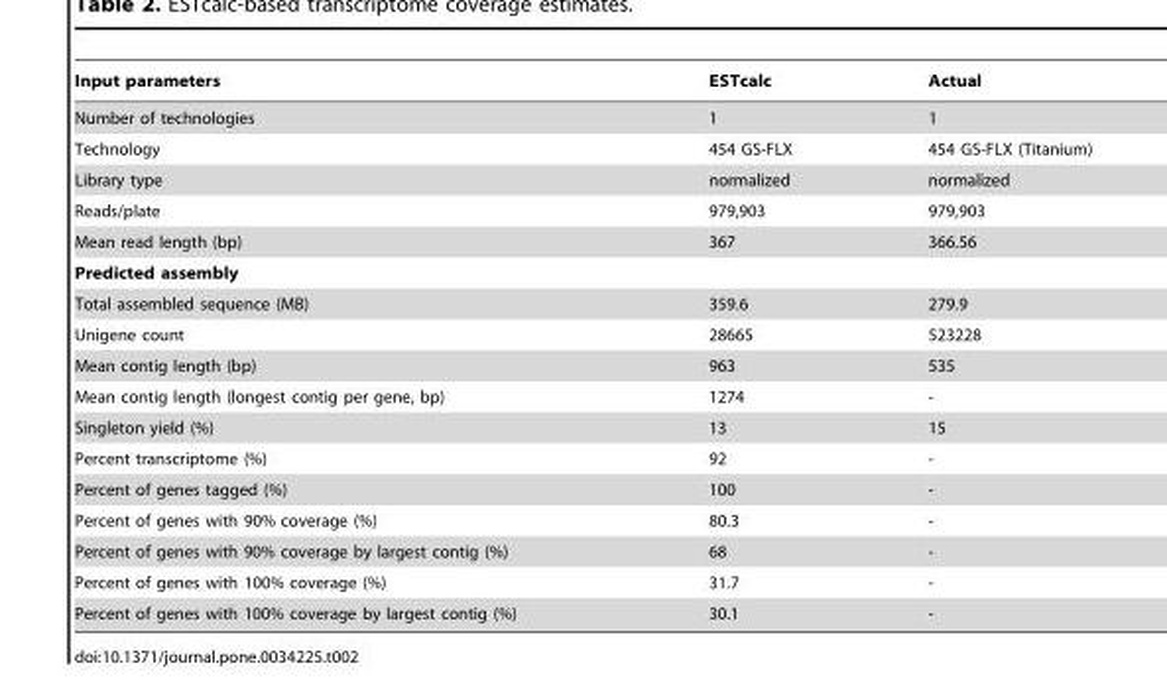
<table><thead><tr><td>Input parameters</td><td>ESTcalc</td><td>Actual</td></tr></thead><tbody><tr><td>Number of technologies</td><td>1</td><td>1</td></tr><tr><td>Technology</td><td>454 GS-FLX</td><td>454 GS-FLX (Titanium)</td></tr><tr><td>Library type</td><td>normalized</td><td>normalized</td></tr><tr><td>Reads/plate</td><td>979,903</td><td>979,903</td></tr><tr><td>Mean read length (bp)</td><td>367</td><td>366.56</td></tr><tr><td colspan="3">Predicted assembly</td></tr><tr><td>Total assembled sequence (MB)</td><td>359.6</td><td>279.9</td></tr><tr><td>Unigene count</td><td>28665</td><td>523228</td></tr><tr><td>Mean contig length (bp)</td><td>963</td><td>535</td></tr><tr><td>Mean contig length (longest contig per gene, bp)</td><td>1274</td><td>-</td></tr><tr><td>Singleton yield (%)</td><td>13</td><td>15</td></tr><tr><td>Percent transcriptome (%)</td><td>92</td><td>-</td></tr><tr><td>Percent of genes tagged (%)</td><td>100</td><td>-</td></tr><tr><td>Percent of genes with 90% coverage (%)</td><td>80.3</td><td>-</td></tr><tr><td>Percent of genes with 90% coverage by largest contig (%)</td><td>68</td><td>-</td></tr><tr><td>Percent of genes with 100% coverage (%)</td><td>31.7</td><td>-</td></tr><tr><td>Percent of genes with 100% coverage by largest contig (%)</td><td>30.1</td><td>-</td></tr></tbody></table>